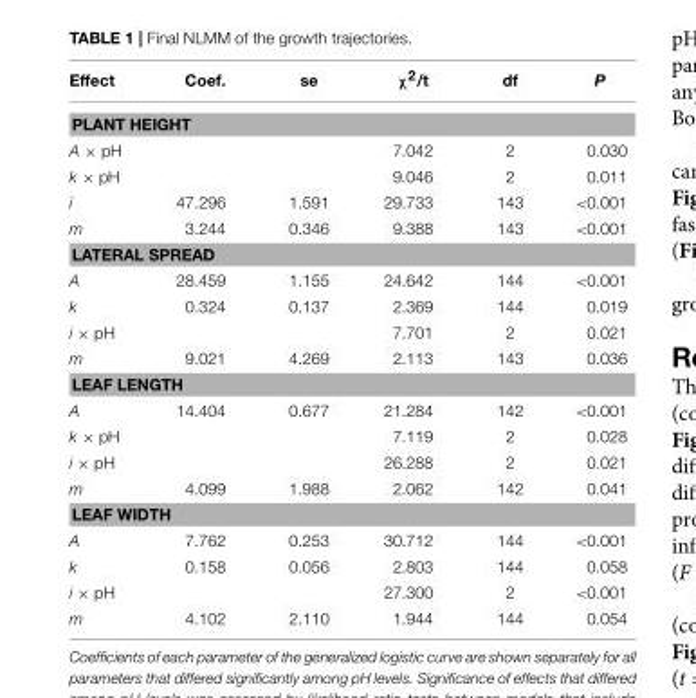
<table><thead><tr><td>Effect</td><td>Coef.</td><td>se</td><td>χ<sup>2</sup>/t</td><td>df</td><td>P</td></tr></thead><tbody><tr><td colspan="6">PLANT HEIGHT</td></tr><tr><td>A × pH</td><td></td><td></td><td>7.042</td><td>2</td><td>0.030</td></tr><tr><td>k × pH</td><td></td><td></td><td>9.046</td><td>2</td><td>0.011</td></tr><tr><td>i</td><td>47.296</td><td>1.591</td><td>29.733</td><td>143</td><td>&lt;0.001</td></tr><tr><td>m</td><td>3.244</td><td>0.346</td><td>9.388</td><td>143</td><td>&lt;0.001</td></tr><tr><td colspan="6">LATERAL SPREAD</td></tr><tr><td>A</td><td>28.459</td><td>1.155</td><td>24.642</td><td>144</td><td>&lt;0.001</td></tr><tr><td>k</td><td>0.324</td><td>0.137</td><td>2.369</td><td>144</td><td>0.019</td></tr><tr><td>i × pH</td><td></td><td></td><td>7.701</td><td>2</td><td>0.021</td></tr><tr><td>m</td><td>9.021</td><td>4.269</td><td>2.113</td><td>143</td><td>0.036</td></tr><tr><td colspan="6">LEAF LENGTH</td></tr><tr><td>A</td><td>14.404</td><td>0.677</td><td>21.284</td><td>142</td><td>&lt;0.001</td></tr><tr><td>k × pH</td><td></td><td></td><td>7.119</td><td>2</td><td>0.028</td></tr><tr><td>i × pH</td><td></td><td></td><td>26.288</td><td>2</td><td>0.021</td></tr><tr><td>m</td><td>4.099</td><td>1.988</td><td>2.062</td><td>142</td><td>0.041</td></tr><tr><td colspan="6">LEAF WIDTH</td></tr><tr><td>A</td><td>7.762</td><td>0.253</td><td>30.712</td><td>144</td><td>&lt;0.001</td></tr><tr><td>k</td><td>0.158</td><td>0.056</td><td>2.803</td><td>144</td><td>0.058</td></tr><tr><td>i × pH</td><td></td><td></td><td>27.300</td><td>2</td><td>&lt;0.001</td></tr><tr><td>m</td><td>4.102</td><td>2.110</td><td>1.944</td><td>144</td><td>0.054</td></tr></tbody></table>